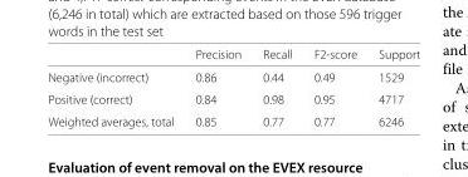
<table><thead><tr><td></td><td>Precision</td><td>Recall</td><td>F2-score</td><td>Support</td></tr></thead><tbody><tr><td>Negative (incorrect)</td><td>0.86</td><td>0.44</td><td>0.49</td><td>1529</td></tr><tr><td>Positive (correct)</td><td>0.84</td><td>0.98</td><td>0.95</td><td>4717</td></tr><tr><td>Weighted averages, total</td><td>0.85</td><td>0.77</td><td>0.77</td><td>6246</td></tr></tbody></table>